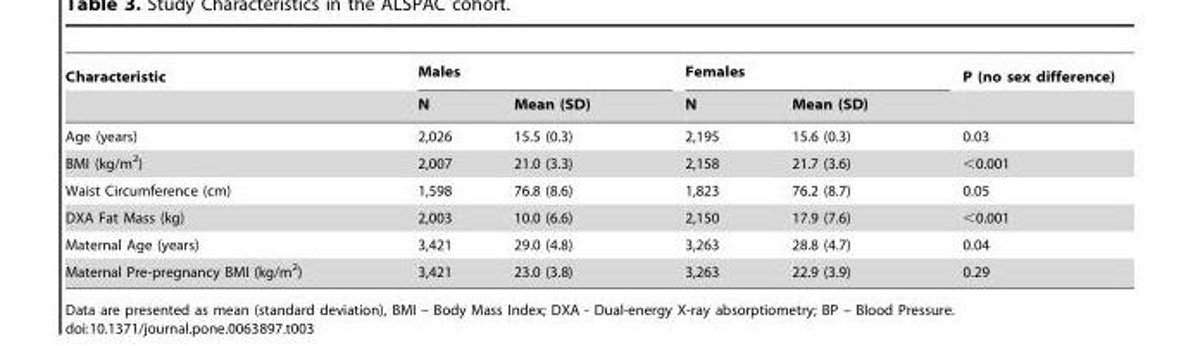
<table><thead><tr><td rowspan="2">Characteristic</td><td colspan="2">Males</td><td colspan="2">Females</td><td rowspan="2">P (no sex difference)</td></tr><tr><td>N</td><td>Mean (SD)</td><td>N</td><td>Mean (SD)</td></tr></thead><tbody><tr><td>Age (years)</td><td>2,026</td><td>15.5 (0.3)</td><td>2,195</td><td>15.6 (0.3)</td><td>0.03</td></tr><tr><td>BMI (kg/m<sup>2</sup>)</td><td>2,007</td><td>21.0 (3.3)</td><td>2,158</td><td>21.7 (3.6)</td><td>&lt;0.001</td></tr><tr><td>Waist Circumference (cm)</td><td>1,598</td><td>76.8 (8.6)</td><td>1,823</td><td>76.2 (8.7)</td><td>0.05</td></tr><tr><td>DXA Fat Mass (kg)</td><td>2,003</td><td>10.0 (6.6)</td><td>2,150</td><td>17.9 (7.6)</td><td>&lt;0.001</td></tr><tr><td>Maternal Age (years)</td><td>3,421</td><td>29.0 (4.8)</td><td>3,263</td><td>28.8 (4.7)</td><td>0.04</td></tr><tr><td>Maternal Pre-pregnancy BMI (kg/m<sup>2</sup>)</td><td>3,421</td><td>23.0 (3.8)</td><td>3,263</td><td>22.9 (3.9)</td><td>0.29</td></tr></tbody></table>